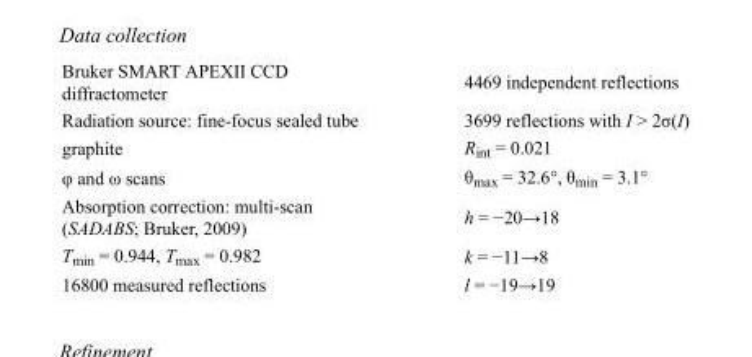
<table><tbody><tr><td>Bruker SMART APEXII CCD diffractometer</td><td>4469 independent reflections</td></tr><tr><td>Radiation source: fine-focus sealed tube</td><td>3699 reflections with I &gt; 2σ(I)</td></tr><tr><td>graphite</td><td>R<sub>int</sub> = 0.021</td></tr><tr><td>φ and ω scans</td><td>θ<sub>max</sub> = 32.6°, θ<sub>min</sub> = 3.1°</td></tr><tr><td>Absorption correction: multi-scan (SADABS; Bruker, 2009)</td><td>h = −20→18</td></tr><tr><td>T<sub>min</sub> = 0.944, T<sub>max</sub> = 0.982</td><td>k = −11→8</td></tr><tr><td>16800 measured reflections</td><td>l = −19→19</td></tr></tbody></table>